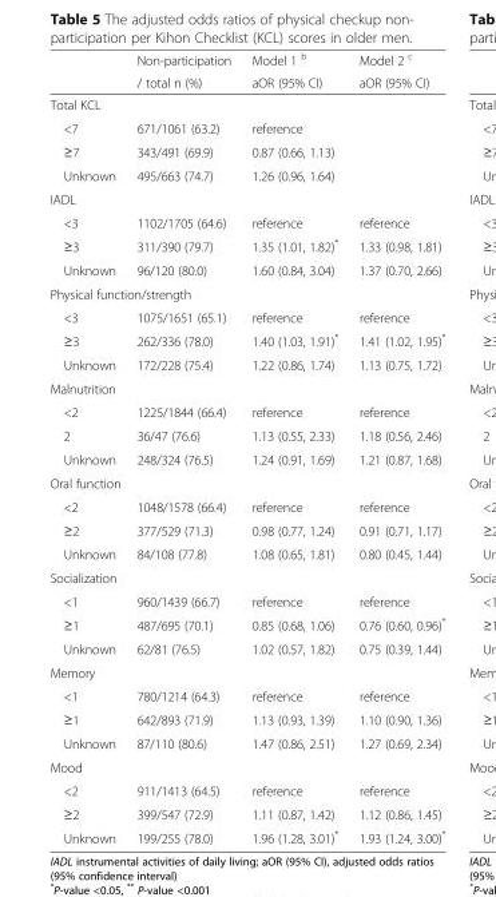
<table><thead><tr><td rowspan="2"></td><td rowspan="2">Non-participation / total n (%)</td><td rowspan="2">Model 1 <sup>b</sup> aOR (95% CI)</td><td rowspan="2">Model 2 <sup>c</sup> aOR (95% CI)</td></tr><tr></tr></thead><tbody><tr><td colspan="4">Total KCL</td></tr><tr><td>&lt;7</td><td>671/1061 (63.2)</td><td>reference</td><td></td></tr><tr><td>≥7</td><td>343/491 (69.9)</td><td>0.87 (0.66, 1.13)</td><td></td></tr><tr><td>Unknown</td><td>495/663 (74.7)</td><td>1.26 (0.96, 1.64)</td><td></td></tr><tr><td colspan="4">IADL</td></tr><tr><td>&lt;3</td><td>1102/1705 (64.6)</td><td>reference</td><td>reference</td></tr><tr><td>≥3</td><td>311/390 (79.7)</td><td>1.35 (1.01, 1.82)*</td><td>1.33 (0.98, 1.81)</td></tr><tr><td>Unknown</td><td>96/120 (80.0)</td><td>1.60 (0.84, 3.04)</td><td>1.37 (0.70, 2.66)</td></tr><tr><td colspan="4">Physical function/strength</td></tr><tr><td>&lt;3</td><td>1075/1651 (65.1)</td><td>reference</td><td>reference</td></tr><tr><td>≥3</td><td>262/336 (78.0)</td><td>1.40 (1.03, 1.91)*</td><td>1.41 (1.02, 1.95)*</td></tr><tr><td>Unknown</td><td>172/228 (75.4)</td><td>1.22 (0.86, 1.74)</td><td>1.13 (0.75, 1.72)</td></tr><tr><td colspan="4">Malnutrition</td></tr><tr><td>&lt;2</td><td>1225/1844 (66.4)</td><td>reference</td><td>reference</td></tr><tr><td>2</td><td>36/47 (76.6)</td><td>1.13 (0.55, 2.33)</td><td>1.18 (0.56, 2.46)</td></tr><tr><td>Unknown</td><td>248/324 (76.5)</td><td>1.24 (0.91, 1.69)</td><td>1.21 (0.87, 1.68)</td></tr><tr><td colspan="4">Oral function</td></tr><tr><td>&lt;2</td><td>1048/1578 (66.4)</td><td>reference</td><td>reference</td></tr><tr><td>≥2</td><td>377/529 (71.3)</td><td>0.98 (0.77, 1.24)</td><td>0.91 (0.71, 1.17)</td></tr><tr><td>Unknown</td><td>84/108 (77.8)</td><td>1.08 (0.65, 1.81)</td><td>0.80 (0.45, 1.44)</td></tr><tr><td colspan="4">Socialization</td></tr><tr><td>&lt;1</td><td>960/1439 (66.7)</td><td>reference</td><td>reference</td></tr><tr><td>≥1</td><td>487/695 (70.1)</td><td>0.85 (0.68, 1.06)</td><td>0.76 (0.60, 0.96)*</td></tr><tr><td>Unknown</td><td>62/81 (76.5)</td><td>1.02 (0.57, 1.82)</td><td>0.75 (0.39, 1.44)</td></tr><tr><td colspan="4">Memory</td></tr><tr><td>&lt;1</td><td>780/1214 (64.3)</td><td>reference</td><td>reference</td></tr><tr><td>≥1</td><td>642/893 (71.9)</td><td>1.13 (0.93, 1.39)</td><td>1.10 (0.90, 1.36)</td></tr><tr><td>Unknown</td><td>87/110 (80.6)</td><td>1.47 (0.86, 2.51)</td><td>1.27 (0.69, 2.34)</td></tr><tr><td colspan="4">Mood</td></tr><tr><td>&lt;2</td><td>911/1413 (64.5)</td><td>reference</td><td>reference</td></tr><tr><td>≥2</td><td>399/547 (72.9)</td><td>1.11 (0.87, 1.42)</td><td>1.12 (0.86, 1.45)</td></tr><tr><td>Unknown</td><td>199/255 (78.0)</td><td>1.96 (1.28, 3.01)*</td><td>1.93 (1.24, 3.00)*</td></tr></tbody></table>